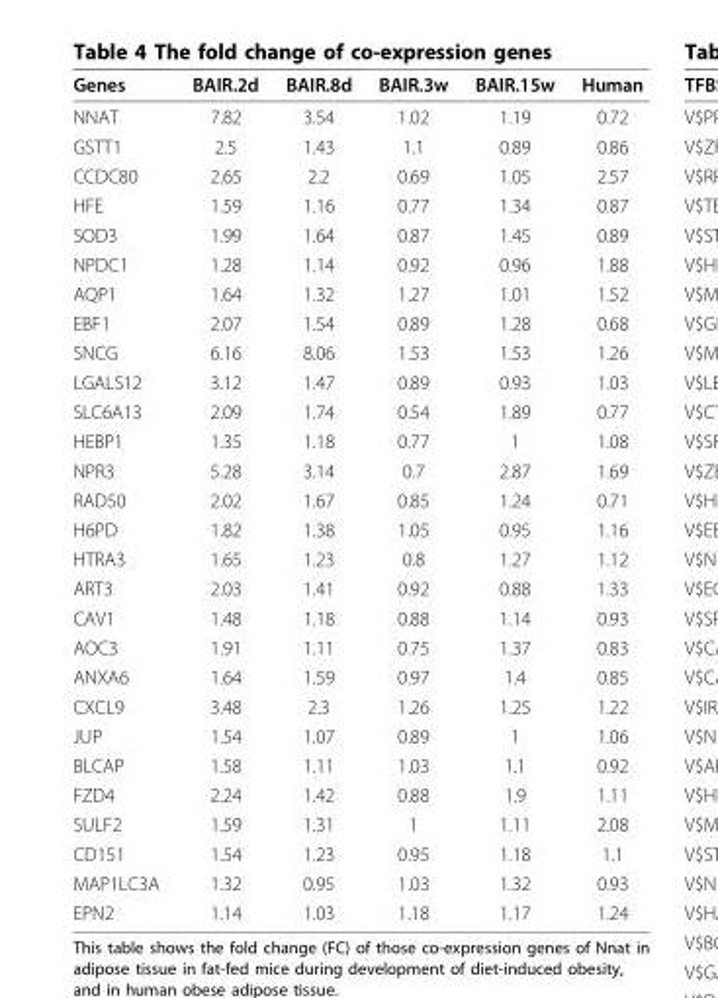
<table><thead><tr><td>Genes</td><td>BAIR.2d</td><td>BAIR.8d</td><td>BAIR.3w</td><td>BAIR.15w</td><td>Human</td></tr></thead><tbody><tr><td>NNAT</td><td>7.82</td><td>3.54</td><td>1.02</td><td>1.19</td><td>0.72</td></tr><tr><td>GSTT1</td><td>2.5</td><td>1.43</td><td>1.1</td><td>0.89</td><td>0.86</td></tr><tr><td>CCDC80</td><td>2.65</td><td>2.2</td><td>0.69</td><td>1.05</td><td>2.57</td></tr><tr><td>HFE</td><td>1.59</td><td>1.16</td><td>0.77</td><td>1.34</td><td>0.87</td></tr><tr><td>SOD3</td><td>1.99</td><td>1.64</td><td>0.87</td><td>1.45</td><td>0.89</td></tr><tr><td>NPDC1</td><td>1.28</td><td>1.14</td><td>0.92</td><td>0.96</td><td>1.88</td></tr><tr><td>AQP1</td><td>1.64</td><td>1.32</td><td>1.27</td><td>1.01</td><td>1.52</td></tr><tr><td>EBF1</td><td>2.07</td><td>1.54</td><td>0.89</td><td>1.28</td><td>0.68</td></tr><tr><td>SNCG</td><td>6.16</td><td>8.06</td><td>1.53</td><td>1.53</td><td>1.26</td></tr><tr><td>LGALS12</td><td>3.12</td><td>1.47</td><td>0.89</td><td>0.93</td><td>1.03</td></tr><tr><td>SLC6A13</td><td>2.09</td><td>1.74</td><td>0.54</td><td>1.89</td><td>0.77</td></tr><tr><td>HEBP1</td><td>1.35</td><td>1.18</td><td>0.77</td><td>1</td><td>1.08</td></tr><tr><td>NPR3</td><td>5.28</td><td>3.14</td><td>0.7</td><td>2.87</td><td>1.69</td></tr><tr><td>RAD50</td><td>2.02</td><td>1.67</td><td>0.85</td><td>1.24</td><td>0.71</td></tr><tr><td>H6PD</td><td>1.82</td><td>1.38</td><td>1.05</td><td>0.95</td><td>1.16</td></tr><tr><td>HTRA3</td><td>1.65</td><td>1.23</td><td>0.8</td><td>1.27</td><td>1.12</td></tr><tr><td>ART3</td><td>2.03</td><td>1.41</td><td>0.92</td><td>0.88</td><td>1.33</td></tr><tr><td>CAV1</td><td>1.48</td><td>1.18</td><td>0.88</td><td>1.14</td><td>0.93</td></tr><tr><td>AOC3</td><td>1.91</td><td>1.11</td><td>0.75</td><td>1.37</td><td>0.83</td></tr><tr><td>ANXA6</td><td>1.64</td><td>1.59</td><td>0.97</td><td>1.4</td><td>0.85</td></tr><tr><td>CXCL9</td><td>3.48</td><td>2.3</td><td>1.26</td><td>1.25</td><td>1.22</td></tr><tr><td>JUP</td><td>1.54</td><td>1.07</td><td>0.89</td><td>1</td><td>1.06</td></tr><tr><td>BLCAP</td><td>1.58</td><td>1.11</td><td>1.03</td><td>1.1</td><td>0.92</td></tr><tr><td>FZD4</td><td>2.24</td><td>1.42</td><td>0.88</td><td>1.9</td><td>1.11</td></tr><tr><td>SULF2</td><td>1.59</td><td>1.31</td><td>1</td><td>1.11</td><td>2.08</td></tr><tr><td>CD151</td><td>1.54</td><td>1.23</td><td>0.95</td><td>1.18</td><td>1.1</td></tr><tr><td>MAP1LC3A</td><td>1.32</td><td>0.95</td><td>1.03</td><td>1.32</td><td>0.93</td></tr><tr><td>EPN2</td><td>1.14</td><td>1.03</td><td>1.18</td><td>1.17</td><td>1.24</td></tr></tbody></table>